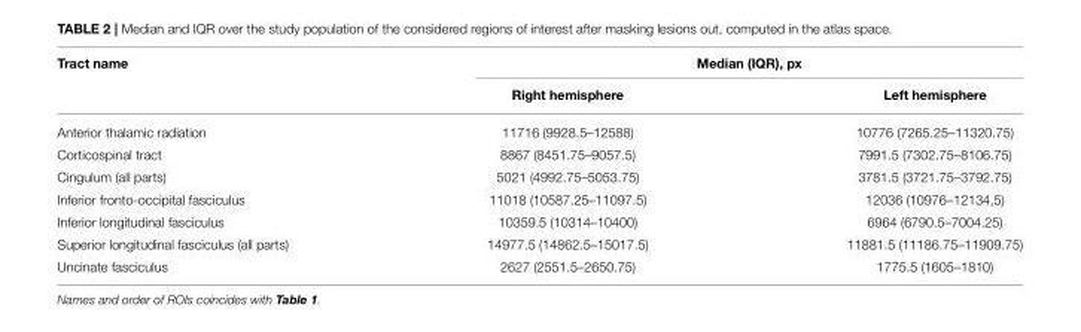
<table><thead><tr><td rowspan="2">Tract name</td><td colspan="2">Median (IQR), px</td></tr><tr><td>Right hemisphere</td><td>Left hemisphere</td></tr></thead><tbody><tr><td>Anterior thalamic radiation</td><td>11716 (9928.5–12588)</td><td>10776 (7265.25–11320.75)</td></tr><tr><td>Corticospinal tract</td><td>8867 (8451.75–9057.5)</td><td>7991.5 (7302.75–8106.75)</td></tr><tr><td>Cingulum (all parts)</td><td>5021 (4992.75–5053.75)</td><td>3781.5 (3721.75–3792.75)</td></tr><tr><td>Inferior fronto-occipital fasciculus</td><td>11018 (10587.25–11097.5)</td><td>12036 (10976–12134,5)</td></tr><tr><td>Inferior longitudinal fasciculus</td><td>10359.5 (10314–10400)</td><td>6964 (6790.5–7004.25)</td></tr><tr><td>Superior longitudinal fasciculus (all parts)</td><td>14977.5 (14862.5–15017.5)</td><td>11881.5 (11186.75–11909.75)</td></tr><tr><td>Uncinate fasciculus</td><td>2627 (2551.5–2650.75)</td><td>1775.5 (1605–1810)</td></tr></tbody></table>